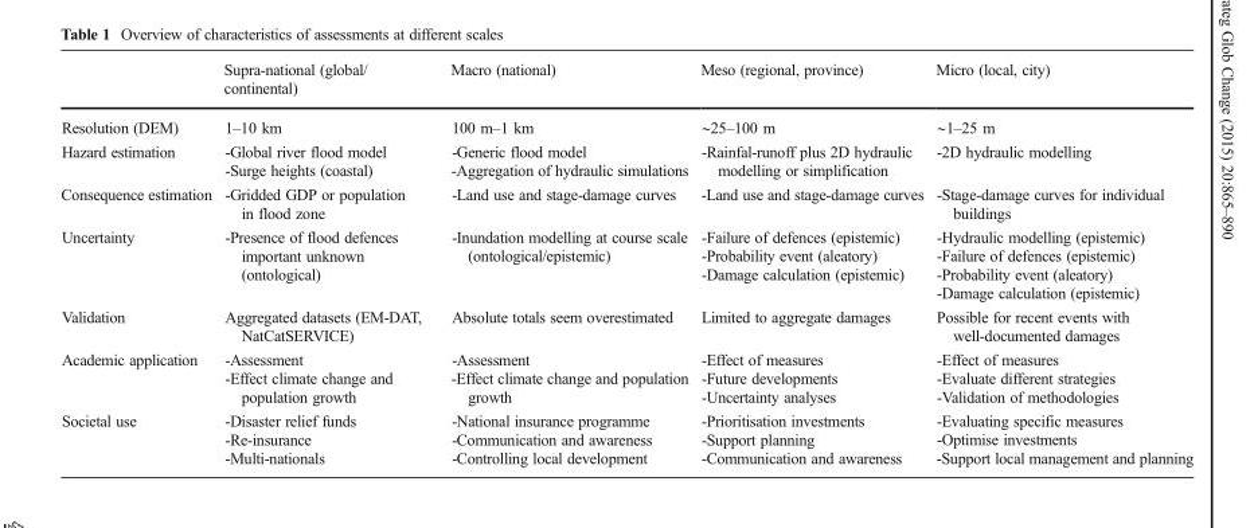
<table><thead><tr><td></td><td>Supra-national (global/ continental)</td><td>Macro (national)</td><td>Meso (regional, province)</td><td>Micro (local, city)</td></tr></thead><tbody><tr><td>Resolution (DEM)</td><td>1–10 km</td><td>100 m–1 km</td><td>∼25–100 m</td><td>∼1–25 m</td></tr><tr><td>Hazard estimation</td><td>-Global river flood model -Surge heights (coastal)</td><td>-Generic flood model -Aggregation of hydraulic simulations</td><td>-Rainfal-runoff plus 2D hydraulic modelling or simplification</td><td>-2D hydraulic modelling</td></tr><tr><td>Consequence estimation</td><td>-Gridded GDP or population in flood zone</td><td>-Land use and stage-damage curves</td><td>-Land use and stage-damage curves</td><td>-Stage-damage curves for individual buildings</td></tr><tr><td>Uncertainty</td><td>-Presence of flood defences important unknown (ontological)</td><td>-Inundation modelling at course scale (ontological/epistemic)</td><td>-Failure of defences (epistemic) -Probability event (aleatory) -Damage calculation (epistemic)</td><td>-Hydraulic modelling (epistemic) -Failure of defences (epistemic) -Probability event (aleatory) -Damage calculation (epistemic)</td></tr><tr><td>Validation</td><td>Aggregated datasets (EM-DAT, NatCatSERVICE)</td><td>Absolute totals seem overestimated</td><td>Limited to aggregate damages</td><td>Possible for recent events with well-documented damages</td></tr><tr><td>Academic application</td><td>-Assessment -Effect climate change and population growth</td><td>-Assessment -Effect climate change and population growth</td><td>-Effect of measures -Future developments -Uncertainty analyses</td><td>-Effect of measures -Evaluate different strategies -Validation of methodologies</td></tr><tr><td>Societal use</td><td>-Disaster relief funds -Re-insurance -Multi-nationals</td><td>-National insurance programme -Communication and awareness -Controlling local development</td><td>-Prioritisation investments -Support planning -Communication and awareness</td><td>-Evaluating specific measures -Optimise investments -Support local management and planning</td></tr></tbody></table>